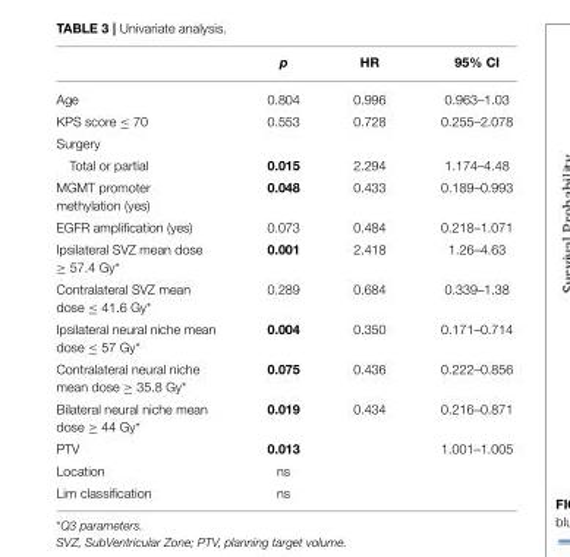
<table><thead><tr><td></td><td>p</td><td>HR</td><td>95% CI</td></tr></thead><tbody><tr><td>Age</td><td>0.804</td><td>0.996</td><td>0.963–1.03</td></tr><tr><td>KPS score ≤ 70</td><td>0.553</td><td>0.728</td><td>0.255–2.078</td></tr><tr><td colspan="4">Surgery</td></tr><tr><td>Total or partial</td><td>0.015</td><td>2.294</td><td>1.174–4.48</td></tr><tr><td>MGMT promoter methylation (yes)</td><td>0.048</td><td>0.433</td><td>0.189–0.993</td></tr><tr><td>EGFR amplification (yes)</td><td>0.073</td><td>0.484</td><td>0.218–1.071</td></tr><tr><td>Ipsilateral SVZ mean dose ≥ 57.4 Gy*</td><td>0.001</td><td>2.418</td><td>1.26–4.63</td></tr><tr><td>Contralateral SVZ mean dose ≤ 41.6 Gy*</td><td>0.289</td><td>0.684</td><td>0.339–1.38</td></tr><tr><td>Ipsilateral neural niche mean dose ≤ 57 Gy*</td><td>0.004</td><td>0.350</td><td>0.171–0.714</td></tr><tr><td>Contralateral neural niche mean dose ≥ 35.8 Gy*</td><td>0.075</td><td>0.436</td><td>0.222–0.856</td></tr><tr><td>Bilateral neural niche mean dose ≥ 44 Gy*</td><td>0.019</td><td>0.434</td><td>0.216–0.871</td></tr><tr><td>PTV</td><td>0.013</td><td></td><td>1.001–1.005</td></tr><tr><td>Location</td><td>ns</td><td></td><td></td></tr><tr><td>Lim classification</td><td>ns</td><td></td><td></td></tr></tbody></table>